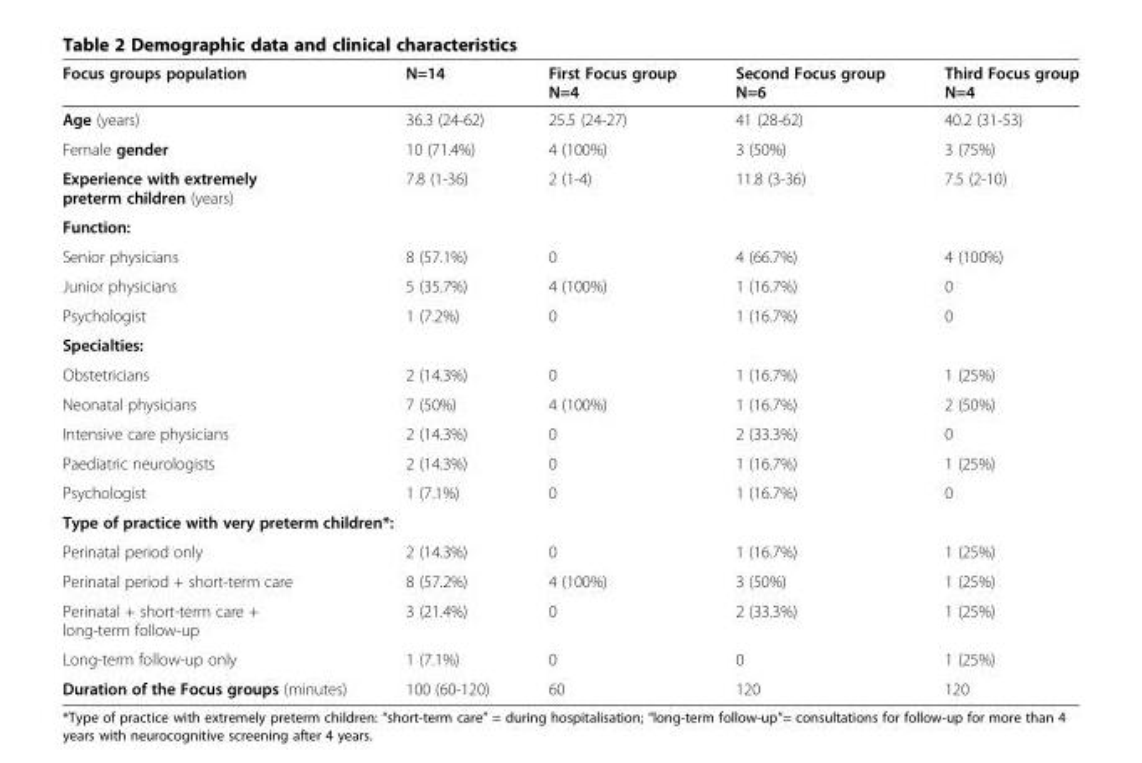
<table><thead><tr><td>Focus groups population</td><td>N=14</td><td>First Focus group N=4</td><td>Second Focus group N=6</td><td>Third Focus group N=4</td></tr></thead><tbody><tr><td>Age (years)</td><td>36.3 (24-62)</td><td>25.5 (24-27)</td><td>41 (28-62)</td><td>40.2 (31-53)</td></tr><tr><td>Female gender</td><td>10 (71.4%)</td><td>4 (100%)</td><td>3 (50%)</td><td>3 (75%)</td></tr><tr><td>Experience with extremely preterm children (years)</td><td>7.8 (1-36)</td><td>2 (1-4)</td><td>11.8 (3-36)</td><td>7.5 (2-10)</td></tr><tr><td colspan="5">Function:</td></tr><tr><td>Senior physicians</td><td>8 (57.1%)</td><td>0</td><td>4 (66.7%)</td><td>4 (100%)</td></tr><tr><td>Junior physicians</td><td>5 (35.7%)</td><td>4 (100%)</td><td>1 (16.7%)</td><td>0</td></tr><tr><td>Psychologist</td><td>1 (7.2%)</td><td>0</td><td>1 (16.7%)</td><td>0</td></tr><tr><td colspan="5">Specialties:</td></tr><tr><td>Obstetricians</td><td>2 (14.3%)</td><td>0</td><td>1 (16.7%)</td><td>1 (25%)</td></tr><tr><td>Neonatal physicians</td><td>7 (50%)</td><td>4 (100%)</td><td>1 (16.7%)</td><td>2 (50%)</td></tr><tr><td>Intensive care physicians</td><td>2 (14.3%)</td><td>0</td><td>2 (33.3%)</td><td>0</td></tr><tr><td>Paediatric neurologists</td><td>2 (14.3%)</td><td>0</td><td>1 (16.7%)</td><td>1 (25%)</td></tr><tr><td>Psychologist</td><td>1 (7.1%)</td><td>0</td><td>1 (16.7%)</td><td>0</td></tr><tr><td colspan="5">Type of practice with very preterm children*:</td></tr><tr><td>Perinatal period only</td><td>2 (14.3%)</td><td>0</td><td>1 (16.7%)</td><td>1 (25%)</td></tr><tr><td>Perinatal period + short-term care</td><td>8 (57.2%)</td><td>4 (100%)</td><td>3 (50%)</td><td>1 (25%)</td></tr><tr><td>Perinatal + short-term care + long-term follow-up</td><td>3 (21.4%)</td><td>0</td><td>2 (33.3%)</td><td>1 (25%)</td></tr><tr><td>Long-term follow-up only</td><td>1 (7.1%)</td><td>0</td><td>0</td><td>1 (25%)</td></tr><tr><td>Duration of the Focus groups (minutes)</td><td>100 (60-120)</td><td>60</td><td>120</td><td>120</td></tr></tbody></table>